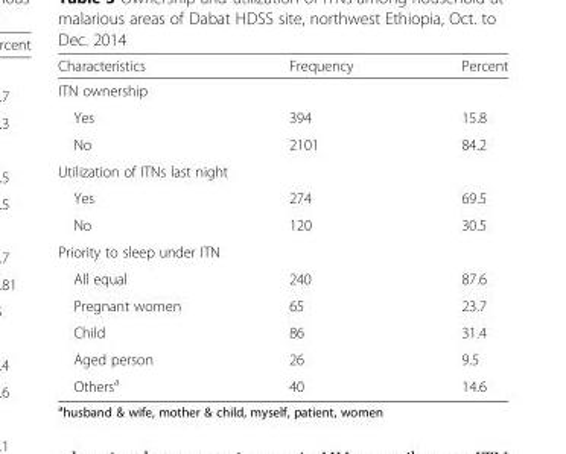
<table><thead><tr><td>Characteristics</td><td>Frequency</td><td>Percent</td></tr></thead><tbody><tr><td colspan="3">ITN ownership</td></tr><tr><td>Yes</td><td>394</td><td>15.8</td></tr><tr><td>No</td><td>2101</td><td>84.2</td></tr><tr><td colspan="3">Utilization of ITNs last night</td></tr><tr><td>Yes</td><td>274</td><td>69.5</td></tr><tr><td>No</td><td>120</td><td>30.5</td></tr><tr><td colspan="3">Priority to sleep under ITN</td></tr><tr><td>All equal</td><td>240</td><td>87.6</td></tr><tr><td>Pregnant women</td><td>65</td><td>23.7</td></tr><tr><td>Child</td><td>86</td><td>31.4</td></tr><tr><td>Aged person</td><td>26</td><td>9.5</td></tr><tr><td>Others<sup>a</sup></td><td>40</td><td>14.6</td></tr></tbody></table>